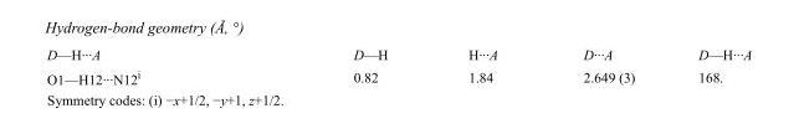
<table><tbody><tr><td>D—H···A</td><td>D—H</td><td>H···A</td><td>D···A</td><td>D—H···A</td></tr><tr><td>O1—H12···N12<sup>i</sup></td><td>0.82</td><td>1.84</td><td>2.649 (3)</td><td>168.</td></tr></tbody></table>